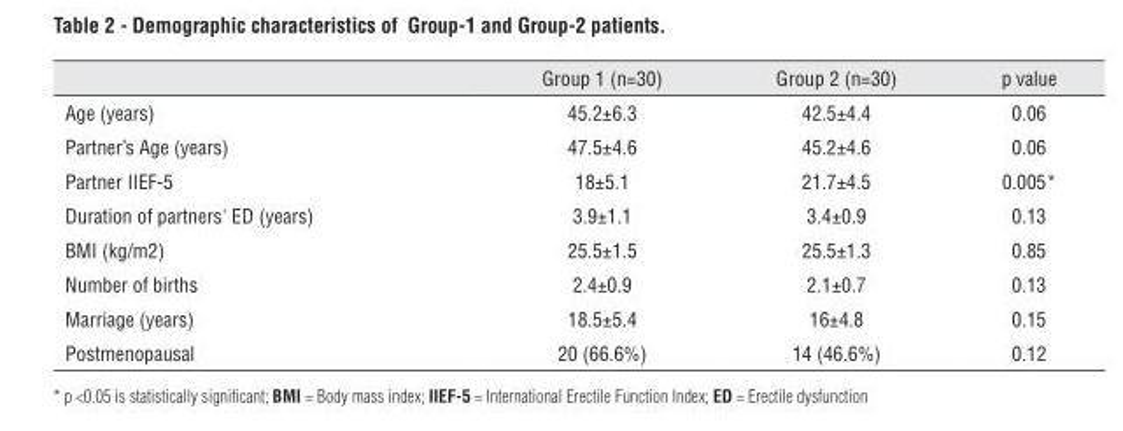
<table><thead><tr><td></td><td>Group 1 (n=30)</td><td>Group 2 (n=30)</td><td>p value</td></tr></thead><tbody><tr><td>Age (years)</td><td>45.2±6.3</td><td>42.5±4.4</td><td>0.06</td></tr><tr><td>Partner’s Age (years)</td><td>47.5±4.6</td><td>45.2±4.6</td><td>0.06</td></tr><tr><td>Partner IIEF-5</td><td>18±5.1</td><td>21.7±4.5</td><td>0.005*</td></tr><tr><td>Duration of partners&#x27; ED (years)</td><td>3.9±1.1</td><td>3.4±0.9</td><td>0.13</td></tr><tr><td>BMI (kg/m2)</td><td>25.5±1.5</td><td>25.5±1.3</td><td>0.85</td></tr><tr><td>Number of births</td><td>2.4±0.9</td><td>2.1±0.7</td><td>0.13</td></tr><tr><td>Marriage (years)</td><td>18.5±5.4</td><td>16±4.8</td><td>0.15</td></tr><tr><td>Postmenopausal</td><td>20 (66.6%)</td><td>14 (46.6%)</td><td>0.12</td></tr></tbody></table>